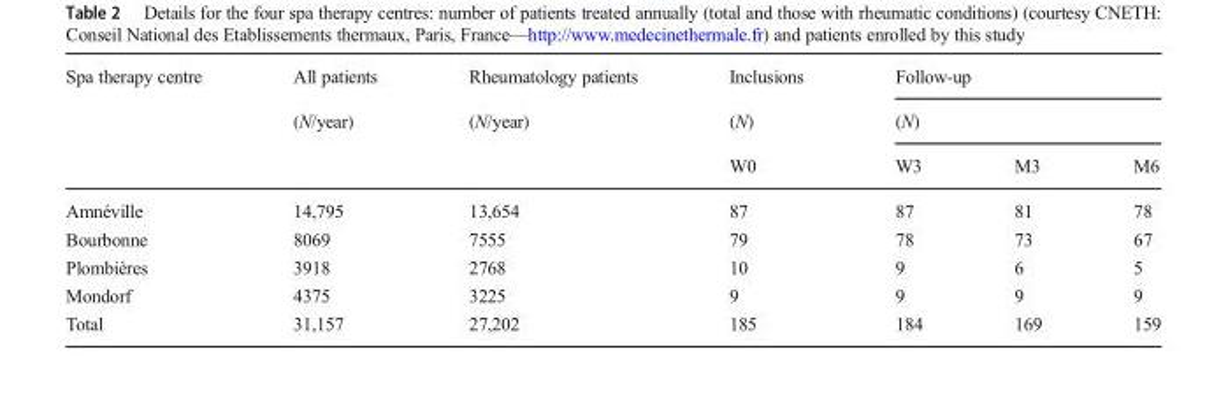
<table><thead><tr><td rowspan="3">Spa therapy centre</td><td rowspan="3">All patients (N/year)</td><td rowspan="3">Rheumatology patients (N/year)</td><td rowspan="3">Inclusions (N) W0</td><td rowspan="2" colspan="3">Follow-up (N)</td></tr><tr></tr><tr><td>W3</td><td>M3</td><td>M6</td></tr></thead><tbody><tr><td>Amnéville</td><td>14,795</td><td>13,654</td><td>87</td><td>87</td><td>81</td><td>78</td></tr><tr><td>Bourbonne</td><td>8069</td><td>7555</td><td>79</td><td>78</td><td>73</td><td>67</td></tr><tr><td>Plombières</td><td>3918</td><td>2768</td><td>10</td><td>9</td><td>6</td><td>5</td></tr><tr><td>Mondorf</td><td>4375</td><td>3225</td><td>9</td><td>9</td><td>9</td><td>9</td></tr><tr><td>Total</td><td>31,157</td><td>27,202</td><td>185</td><td>184</td><td>169</td><td>159</td></tr></tbody></table>